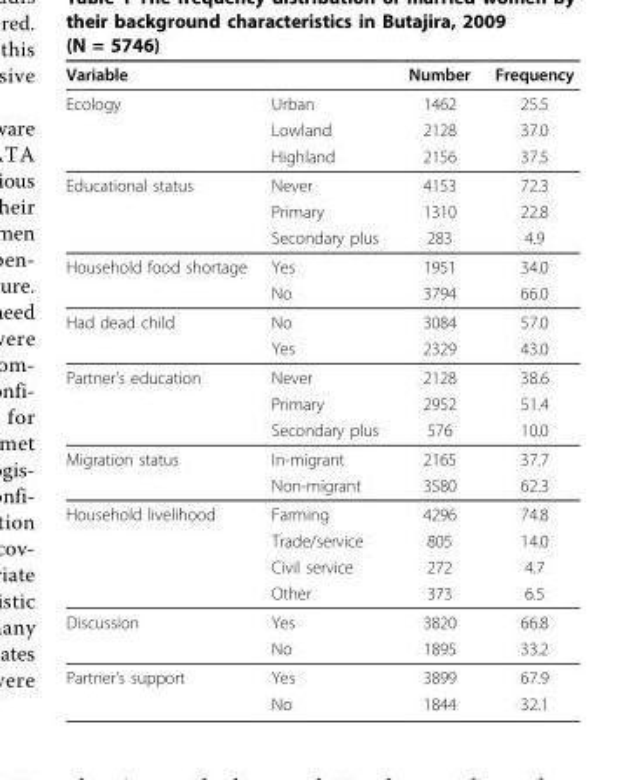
<table><thead><tr><td colspan="2">Variable</td><td rowspan="2">Number 1462</td><td rowspan="2">Frequency 25.5</td></tr><tr><td>Ecology</td><td>Urban</td></tr></thead><tbody><tr><td></td><td>Lowland</td><td>2128</td><td>37.0</td></tr><tr><td></td><td>Highland</td><td>2156</td><td>37.5</td></tr><tr><td rowspan="3">Educational status</td><td>Never</td><td>4153</td><td>72.3</td></tr><tr><td>Primary</td><td>1310</td><td>22.8</td></tr><tr><td>Secondary plus</td><td>283</td><td>4.9</td></tr><tr><td rowspan="2">Household food shortage</td><td>Yes</td><td>1951</td><td>34.0</td></tr><tr><td>No</td><td>3794</td><td>66.0</td></tr><tr><td rowspan="2">Had dead child</td><td>No</td><td>3084</td><td>57.0</td></tr><tr><td>Yes</td><td>2329</td><td>43.0</td></tr><tr><td rowspan="3">Partner’s education</td><td>Never</td><td>2128</td><td>38.6</td></tr><tr><td>Primary</td><td>2952</td><td>51.4</td></tr><tr><td>Secondary plus</td><td>576</td><td>10.0</td></tr><tr><td rowspan="2">Migration status</td><td>In-migrant</td><td>2165</td><td>37.7</td></tr><tr><td>Non-migrant</td><td>3580</td><td>62.3</td></tr><tr><td rowspan="4">Household livelihood</td><td>Farming</td><td>4296</td><td>74.8</td></tr><tr><td>Trade/service</td><td>805</td><td>14.0</td></tr><tr><td>Civil service</td><td>272</td><td>4.7</td></tr><tr><td>Other</td><td>373</td><td>6.5</td></tr><tr><td rowspan="2">Discussion</td><td>Yes</td><td>3820</td><td>66.8</td></tr><tr><td>No</td><td>1895</td><td>33.2</td></tr><tr><td rowspan="2">Partner’s support</td><td>Yes</td><td>3899</td><td>67.9</td></tr><tr><td>No</td><td>1844</td><td>32.1</td></tr></tbody></table>